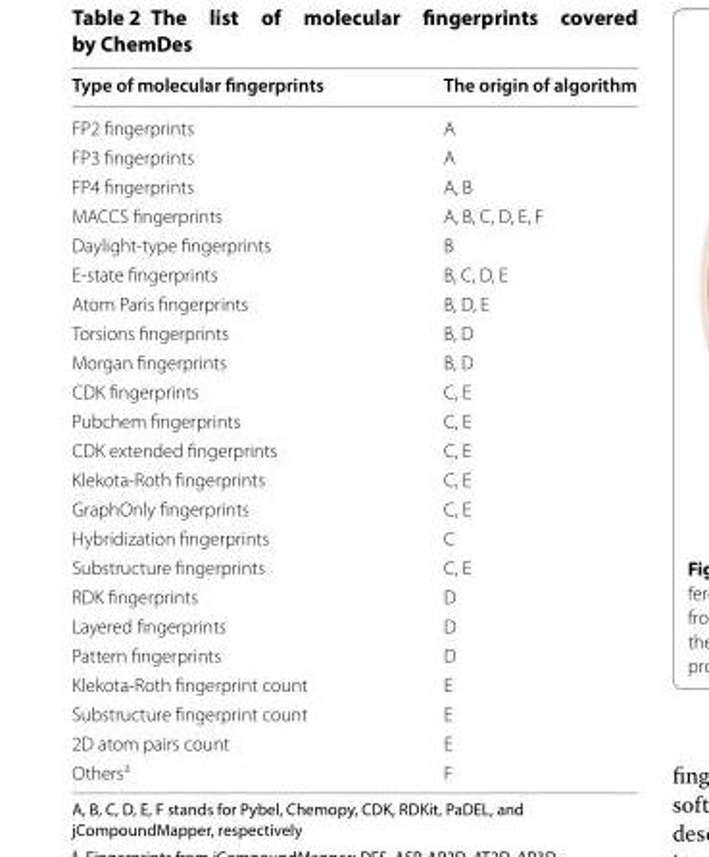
<table><thead><tr><td>Type of molecular fingerprints</td><td>The origin of algorithm</td></tr></thead><tbody><tr><td>FP2 fingerprints</td><td>A</td></tr><tr><td>FP3 fingerprints</td><td>A</td></tr><tr><td>FP4 fingerprints</td><td>A, B</td></tr><tr><td>MACCS fingerprints</td><td>A, B, C, D, E, F</td></tr><tr><td>Daylight‑type fingerprints</td><td>B</td></tr><tr><td>E‑state fingerprints</td><td>B, C, D, E</td></tr><tr><td>Atom Paris fingerprints</td><td>B, D, E</td></tr><tr><td>Torsions fingerprints</td><td>B, D</td></tr><tr><td>Morgan fingerprints</td><td>B, D</td></tr><tr><td>CDK fingerprints</td><td>C, E</td></tr><tr><td>Pubchem fingerprints</td><td>C, E</td></tr><tr><td>CDK extended fingerprints</td><td>C, E</td></tr><tr><td>Klekota‑Roth fingerprints</td><td>C, E</td></tr><tr><td>GraphOnly fingerprints</td><td>C, E</td></tr><tr><td>Hybridization fingerprints</td><td>C</td></tr><tr><td>Substructure fingerprints</td><td>C, E</td></tr><tr><td>RDK fingerprints</td><td>D</td></tr><tr><td>Layered fingerprints</td><td>D</td></tr><tr><td>Pattern fingerprints</td><td>D</td></tr><tr><td>Klekota‑Roth fingerprint count</td><td>E</td></tr><tr><td>Substructure fingerprint count</td><td>E</td></tr><tr><td>2D atom pairs count</td><td>E</td></tr><tr><td>Others<sup>a</sup></td><td>F</td></tr></tbody></table>